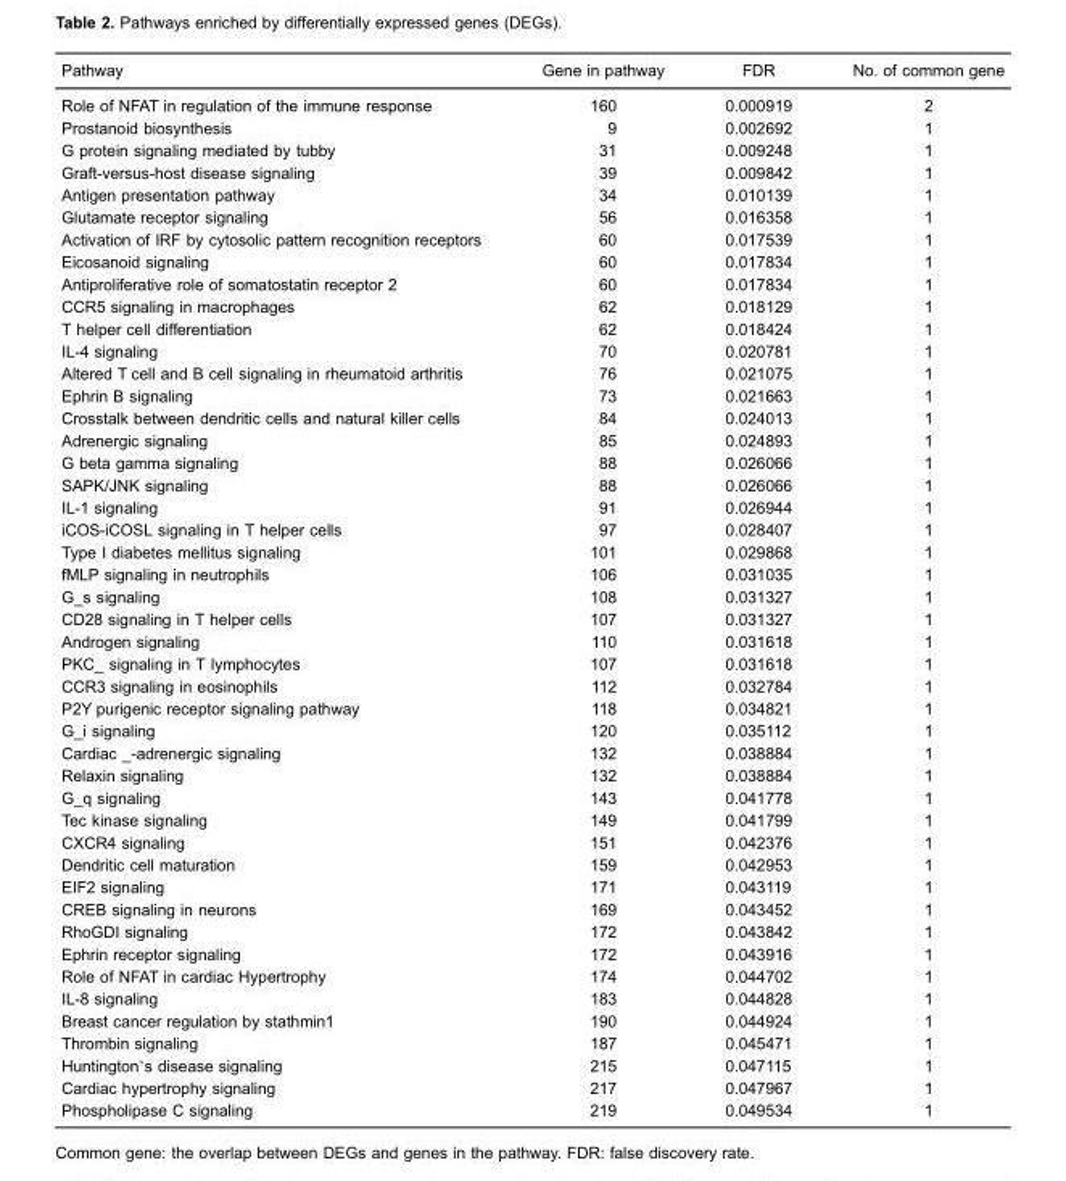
<table><thead><tr><td>Pathway</td><td>Gene in pathway</td><td>FDR</td><td>No. of common gene</td></tr></thead><tbody><tr><td>Role of NFAT in regulation of the immune response</td><td>160</td><td>0.000919</td><td>2</td></tr><tr><td>Prostanoid biosynthesis</td><td>9</td><td>0.002692</td><td>1</td></tr><tr><td>G protein signaling mediated by tubby</td><td>31</td><td>0.009248</td><td>1</td></tr><tr><td>Graft-versus-host disease signaling</td><td>39</td><td>0.009842</td><td>1</td></tr><tr><td>Antigen presentation pathway</td><td>34</td><td>0.010139</td><td>1</td></tr><tr><td>Glutamate receptor signaling</td><td>56</td><td>0.016358</td><td>1</td></tr><tr><td>Activation of IRF by cytosolic pattern recognition receptors</td><td>60</td><td>0.017539</td><td>1</td></tr><tr><td>Eicosanoid signaling</td><td>60</td><td>0.017834</td><td>1</td></tr><tr><td>Antiproliferative role of somatostatin receptor 2</td><td>60</td><td>0.017834</td><td>1</td></tr><tr><td>CCR5 signaling in macrophages</td><td>62</td><td>0.018129</td><td>1</td></tr><tr><td>T helper cell differentiation</td><td>62</td><td>0.018424</td><td>1</td></tr><tr><td>IL-4 signaling</td><td>70</td><td>0.020781</td><td>1</td></tr><tr><td>Altered T cell and B cell signaling in rheumatoid arthritis</td><td>76</td><td>0.021075</td><td>1</td></tr><tr><td>Ephrin B signaling</td><td>73</td><td>0.021663</td><td>1</td></tr><tr><td>Crosstalk between dendritic cells and natural killer cells</td><td>84</td><td>0.024013</td><td>1</td></tr><tr><td>Adrenergic signaling</td><td>85</td><td>0.024893</td><td>1</td></tr><tr><td>G beta gamma signaling</td><td>88</td><td>0.026066</td><td>1</td></tr><tr><td>SAPK/JNK signaling</td><td>88</td><td>0.026066</td><td>1</td></tr><tr><td>IL-1 signaling</td><td>91</td><td>0.026944</td><td>1</td></tr><tr><td>iCOS-iCOSL signaling in T helper cells</td><td>97</td><td>0.028407</td><td>1</td></tr><tr><td>Type I diabetes mellitus signaling</td><td>101</td><td>0.029868</td><td>1</td></tr><tr><td>fMLP signaling in neutrophils</td><td>106</td><td>0.031035</td><td>1</td></tr><tr><td>G_s signaling</td><td>108</td><td>0.031327</td><td>1</td></tr><tr><td>CD28 signaling in T helper cells</td><td>107</td><td>0.031327</td><td>1</td></tr><tr><td>Androgen signaling</td><td>110</td><td>0.031618</td><td>1</td></tr><tr><td>PKC_ signaling in T lymphocytes</td><td>107</td><td>0.031618</td><td>1</td></tr><tr><td>CCR3 signaling in eosinophils</td><td>112</td><td>0.032784</td><td>1</td></tr><tr><td>P2Y purigenic receptor signaling pathway</td><td>118</td><td>0.034821</td><td>1</td></tr><tr><td>G_i signaling</td><td>120</td><td>0.035112</td><td>1</td></tr><tr><td>Cardiac _-adrenergic signaling</td><td>132</td><td>0.038884</td><td>1</td></tr><tr><td>Relaxin signaling</td><td>132</td><td>0.038884</td><td>1</td></tr><tr><td>G_q signaling</td><td>143</td><td>0.041778</td><td>1</td></tr><tr><td>Tec kinase signaling</td><td>149</td><td>0.041799</td><td>1</td></tr><tr><td>CXCR4 signaling</td><td>151</td><td>0.042376</td><td>1</td></tr><tr><td>Dendritic cell maturation</td><td>159</td><td>0.042953</td><td>1</td></tr><tr><td>EIF2 signaling</td><td>171</td><td>0.043119</td><td>1</td></tr><tr><td>CREB signaling in neurons</td><td>169</td><td>0.043452</td><td>1</td></tr><tr><td>RhoGDI signaling</td><td>172</td><td>0.043842</td><td>1</td></tr><tr><td>Ephrin receptor signaling</td><td>172</td><td>0.043916</td><td>1</td></tr><tr><td>Role of NFAT in cardiac Hypertrophy</td><td>174</td><td>0.044702</td><td>1</td></tr><tr><td>IL-8 signaling</td><td>183</td><td>0.044828</td><td>1</td></tr><tr><td>Breast cancer regulation by stathmin1</td><td>190</td><td>0.044924</td><td>1</td></tr><tr><td>Thrombin signaling</td><td>187</td><td>0.045471</td><td>1</td></tr><tr><td>Huntington’s disease signaling</td><td>215</td><td>0.047115</td><td>1</td></tr><tr><td>Cardiac hypertrophy signaling</td><td>217</td><td>0.047967</td><td>1</td></tr><tr><td>Phospholipase C signaling</td><td>219</td><td>0.049534</td><td>1</td></tr></tbody></table>